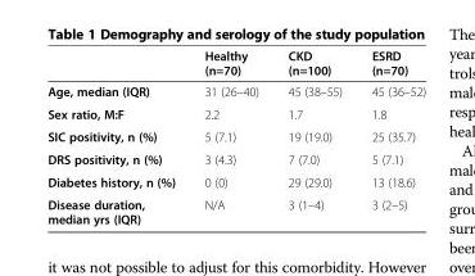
<table><thead><tr><td></td><td>Healthy (n=70)</td><td>CKD (n=100)</td><td>ESRD (n=70)</td></tr></thead><tbody><tr><td>Age, median (IQR)</td><td>31 (26–40)</td><td>45 (38–55)</td><td>45 (36–52)</td></tr><tr><td>Sex ratio, M:F</td><td>2.2</td><td>1.7</td><td>1.8</td></tr><tr><td>SIC positivity, n (%)</td><td>5 (7.1)</td><td>19 (19.0)</td><td>25 (35.7)</td></tr><tr><td>DRS positivity, n (%)</td><td>3 (4.3)</td><td>7 (7.0)</td><td>5 (7.1)</td></tr><tr><td>Diabetes history, n (%)</td><td>0 (0)</td><td>29 (29.0)</td><td>13 (18.6)</td></tr><tr><td>Disease duration, median yrs (IQR)</td><td>N/A</td><td>3 (1–4)</td><td>3 (2–5)</td></tr></tbody></table>